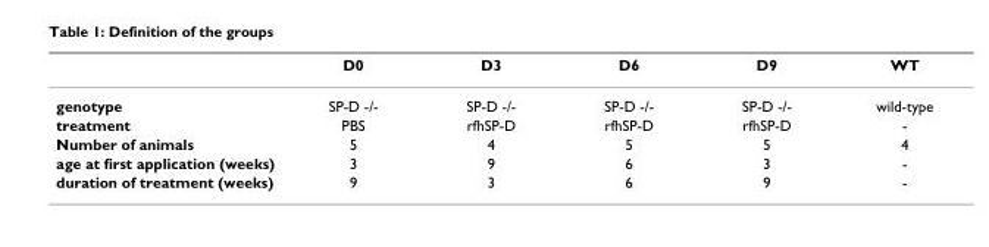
<table><thead><tr><td></td><td>D0</td><td>D3</td><td>D6</td><td>D9</td><td>WT</td></tr></thead><tbody><tr><td>genotype</td><td>SP-D -/-</td><td>SP-D -/-</td><td>SP-D -/-</td><td>SP-D -/-</td><td>wild-type</td></tr><tr><td>treatment</td><td>PBS</td><td>rfhSP-D</td><td>rfhSP-D</td><td>rfhSP-D</td><td>-</td></tr><tr><td>Number of animals</td><td>5</td><td>4</td><td>5</td><td>5</td><td>4</td></tr><tr><td>age at first application (weeks)</td><td>3</td><td>9</td><td>6</td><td>3</td><td>-</td></tr><tr><td>duration of treatment (weeks)</td><td>9</td><td>3</td><td>6</td><td>9</td><td>-</td></tr></tbody></table>